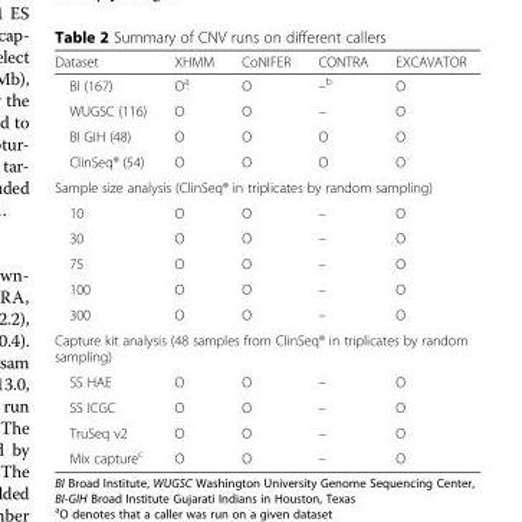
<table><thead><tr><td>Dataset</td><td>XHMM</td><td>CoNIFER</td><td>CONTRA</td><td>EXCAVATOR</td></tr></thead><tbody><tr><td>BI (167)</td><td>O<sup>a</sup></td><td>O</td><td>–<sup>b</sup></td><td>O</td></tr><tr><td>WUGSC (116)</td><td>O</td><td>O</td><td>–</td><td>O</td></tr><tr><td>BI GIH (48)</td><td>O</td><td>O</td><td>O</td><td>O</td></tr><tr><td>ClinSeq® (54)</td><td>O</td><td>O</td><td>O</td><td>O</td></tr><tr><td colspan="5">Sample size analysis (ClinSeq® in triplicates by random sampling)</td></tr><tr><td>10</td><td>O</td><td>O</td><td>–</td><td>O</td></tr><tr><td>30</td><td>O</td><td>O</td><td>–</td><td>O</td></tr><tr><td>75</td><td>O</td><td>O</td><td>–</td><td>O</td></tr><tr><td>100</td><td>O</td><td>O</td><td>–</td><td>O</td></tr><tr><td>300</td><td>O</td><td>O</td><td>–</td><td>O</td></tr><tr><td colspan="5">Capture kit analysis (48 samples from ClinSeq® in triplicates by random sampling)</td></tr><tr><td>SS HAE</td><td>O</td><td>O</td><td>–</td><td>O</td></tr><tr><td>SS ICGC</td><td>O</td><td>O</td><td>–</td><td>O</td></tr><tr><td>TruSeq v2</td><td>O</td><td>O</td><td>–</td><td>O</td></tr><tr><td>Mix capture<sup>c</sup></td><td>O</td><td>O</td><td>–</td><td>O</td></tr></tbody></table>